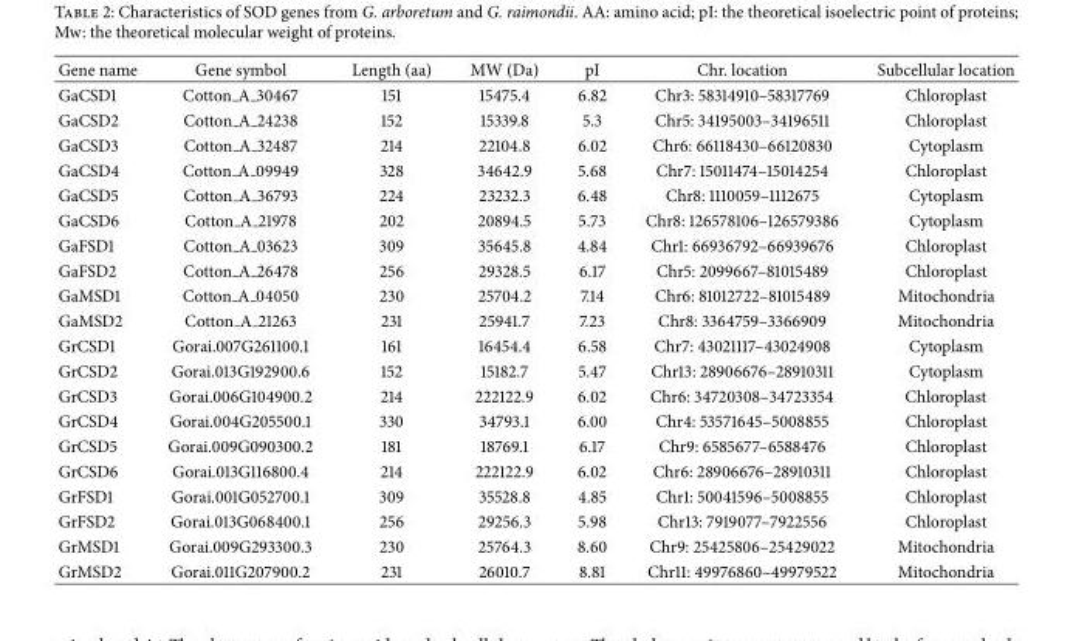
<table><thead><tr><td>Gene name</td><td>Gene symbol</td><td>Length (aa)</td><td>MW (Da)</td><td>pI</td><td>Chr. location</td><td>Subcellular location</td></tr></thead><tbody><tr><td>GaCSD1</td><td>Cotton <sub>A</sub> 30467</td><td>151</td><td>15475.4</td><td>6.82</td><td>Chr3: 58314910–58317769</td><td>Chloroplast</td></tr><tr><td>GaCSD2</td><td>Cotton <sub>A</sub> 24238</td><td>152</td><td>15339.8</td><td>5.3</td><td>Chr5: 34195003–34196511</td><td>Chloroplast</td></tr><tr><td>GaCSD3</td><td>Cotton <sub>A</sub> 32487</td><td>214</td><td>22104.8</td><td>6.02</td><td>Chr6: 66118430–66120830</td><td>Cytoplasm</td></tr><tr><td>GaCSD4</td><td>Cotton <sub>A</sub> 09949</td><td>328</td><td>34642.9</td><td>5.68</td><td>Chr7: 15011474–15014254</td><td>Chloroplast</td></tr><tr><td>GaCSD5</td><td>Cotton <sub>A</sub> 36793</td><td>224</td><td>23232.3</td><td>6.48</td><td>Chr8: 1110059–1112675</td><td>Cytoplasm</td></tr><tr><td>GaCSD6</td><td>Cotton <sub>A</sub> 21978</td><td>202</td><td>20894.5</td><td>5.73</td><td>Chr8: 126578106–126579386</td><td>Cytoplasm</td></tr><tr><td>GaFSD1</td><td>Cotton <sub>A</sub> 03623</td><td>309</td><td>35645.8</td><td>4.84</td><td>Chr1: 66936792–66939676</td><td>Chloroplast</td></tr><tr><td>GaFSD2</td><td>Cotton <sub>A</sub> 26478</td><td>256</td><td>29328.5</td><td>6.17</td><td>Chr5: 2099667–81015489</td><td>Chloroplast</td></tr><tr><td>GaMSD1</td><td>Cotton <sub>A</sub> 04050</td><td>230</td><td>25704.2</td><td>7.14</td><td>Chr6: 81012722–81015489</td><td>Mitochondria</td></tr><tr><td>GaMSD2</td><td>Cotton <sub>A</sub> 21263</td><td>231</td><td>25941.7</td><td>7.23</td><td>Chr8: 3364759–3366909</td><td>Mitochondria</td></tr><tr><td>GrCSD1</td><td>Gorai.007G261100.1</td><td>161</td><td>16454.4</td><td>6.58</td><td>Chr7: 43021117–43024908</td><td>Cytoplasm</td></tr><tr><td>GrCSD2</td><td>Gorai.013G192900.6</td><td>152</td><td>15182.7</td><td>5.47</td><td>Chr13: 28906676–28910311</td><td>Cytoplasm</td></tr><tr><td>GrCSD3</td><td>Gorai.006G104900.2</td><td>214</td><td>222122.9</td><td>6.02</td><td>Chr6: 34720308–34723354</td><td>Chloroplast</td></tr><tr><td>GrCSD4</td><td>Gorai.004G205500.1</td><td>330</td><td>34793.1</td><td>6.00</td><td>Chr4: 53571645–5008855</td><td>Chloroplast</td></tr><tr><td>GrCSD5</td><td>Gorai.009G090300.2</td><td>181</td><td>18769.1</td><td>6.17</td><td>Chr9: 6585677–6588476</td><td>Chloroplast</td></tr><tr><td>GrCSD6</td><td>Gorai.013G116800.4</td><td>214</td><td>222122.9</td><td>6.02</td><td>Chr6: 28906676–28910311</td><td>Chloroplast</td></tr><tr><td>GrFSD1</td><td>Gorai.001G052700.1</td><td>309</td><td>35528.8</td><td>4.85</td><td>Chr1: 50041596–5008855</td><td>Chloroplast</td></tr><tr><td>GrFSD2</td><td>Gorai.013G068400.1</td><td>256</td><td>29256.3</td><td>5.98</td><td>Chr13: 7919077–7922556</td><td>Chloroplast</td></tr><tr><td>GrMSD1</td><td>Gorai.009G293300.3</td><td>230</td><td>25764.3</td><td>8.60</td><td>Chr9: 25425806–25429022</td><td>Mitochondria</td></tr><tr><td>GrMSD2</td><td>Gorai.011G207900.2</td><td>231</td><td>26010.7</td><td>8.81</td><td>Chr11: 49976860–49979522</td><td>Mitochondria</td></tr></tbody></table>